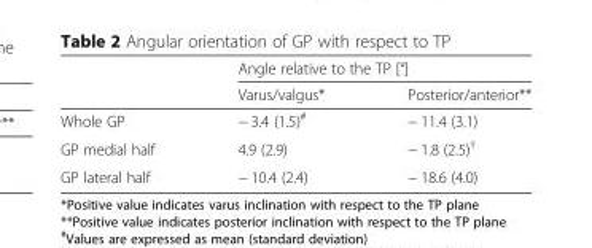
<table><thead><tr><td rowspan="2"></td><td colspan="2">Angle relative to the TP [°]</td></tr><tr><td>Varus/valgus*</td><td>Posterior/anterior**</td></tr></thead><tbody><tr><td>Whole GP</td><td>− 3.4 (1.5)<sup>#</sup></td><td>− 11.4 (3.1)</td></tr><tr><td>GP medial half</td><td>4.9 (2.9)</td><td>− 1.8 (2.5)<sup>†</sup></td></tr><tr><td>GP lateral half</td><td>− 10.4 (2.4)</td><td>− 18.6 (4.0)</td></tr></tbody></table>